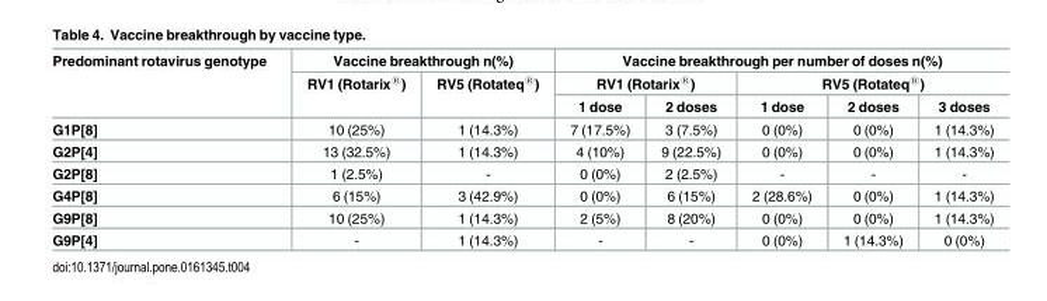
<table><thead><tr><td rowspan="3">Predominant rotavirus genotype</td><td colspan="2">Vaccine breakthrough n(%)</td><td colspan="5">Vaccine breakthrough per number of doses n(%)</td></tr><tr><td rowspan="2">RV1 (Rotarix<sup>®</sup>)</td><td rowspan="2">RV5 (Rotateq<sup>®</sup>)</td><td colspan="2">RV1 (Rotarix<sup>®</sup>)</td><td colspan="3">RV5 (Rotateq<sup>®</sup>)</td></tr><tr><td>1 dose</td><td>2 doses</td><td>1 dose</td><td>2 doses</td><td>3 doses</td></tr></thead><tbody><tr><td>G1P[8]</td><td>10 (25%)</td><td>1 (14.3%)</td><td>7 (17.5%)</td><td>3 (7.5%)</td><td>0 (0%)</td><td>0 (0%)</td><td>1 (14.3%)</td></tr><tr><td>G2P[4]</td><td>13 (32.5%)</td><td>1 (14.3%)</td><td>4 (10%)</td><td>9 (22.5%)</td><td>0 (0%)</td><td>0 (0%)</td><td>1 (14.3%)</td></tr><tr><td>G2P[8]</td><td>1 (2.5%)</td><td>-</td><td>0 (0%)</td><td>2 (2.5%)</td><td>-</td><td>-</td><td>-</td></tr><tr><td>G4P[8]</td><td>6 (15%)</td><td>3 (42.9%)</td><td>0 (0%)</td><td>6 (15%)</td><td>2 (28.6%)</td><td>0 (0%)</td><td>1 (14.3%)</td></tr><tr><td>G9P[8]</td><td>10 (25%)</td><td>1 (14.3%)</td><td>2 (5%)</td><td>8 (20%)</td><td>0 (0%)</td><td>0 (0%)</td><td>1 (14.3%)</td></tr><tr><td>G9P[4]</td><td>-</td><td>1 (14.3%)</td><td>-</td><td>-</td><td>0 (0%)</td><td>1 (14.3%)</td><td>0 (0%)</td></tr></tbody></table>